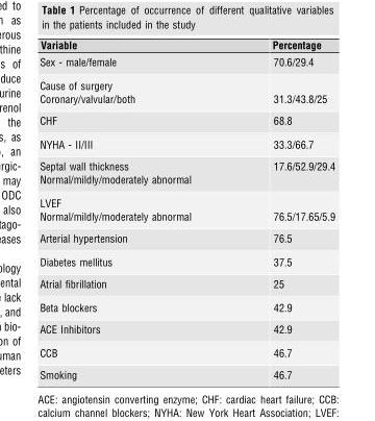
<table><thead><tr><td>Variable</td><td>Percentage</td></tr></thead><tbody><tr><td>Sex - male/female</td><td>70.6/29.4</td></tr><tr><td>Cause of surgery Coronary/valvular/both</td><td>31.3/43.8/25</td></tr><tr><td>CHF</td><td>68.8</td></tr><tr><td>NYHA - II/III</td><td>33.3/66.7</td></tr><tr><td>Septal wall thickness Normal/mildly/moderately abnormal</td><td>17.6/52.9/29.4</td></tr><tr><td>LVEF Normal/mildly/moderately abnormal</td><td>76.5/17.65/5.9</td></tr><tr><td>Arterial hypertension</td><td>76.5</td></tr><tr><td>Diabetes mellitus</td><td>37.5</td></tr><tr><td>Atrial fibrillation</td><td>25</td></tr><tr><td>Beta blockers</td><td>42.9</td></tr><tr><td>ACE Inhibitors</td><td>42.9</td></tr><tr><td>CCB</td><td>46.7</td></tr><tr><td>Smoking</td><td>46.7</td></tr></tbody></table>